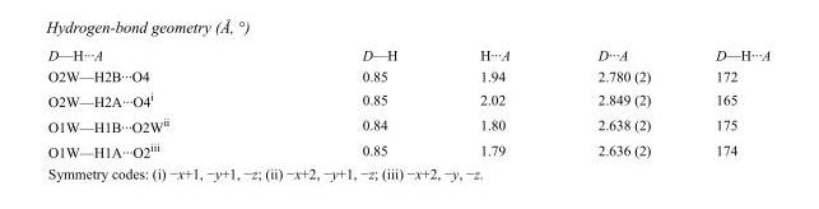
<table><tbody><tr><td>D—H···A</td><td>D—H</td><td>H···A</td><td>D···A</td><td>D—H···A</td></tr><tr><td>O2W—H2B···O4</td><td>0.85</td><td>1.94</td><td>2.780 (2)</td><td>172</td></tr><tr><td>O2W—H2A···O4<sup>i</sup></td><td>0.85</td><td>2.02</td><td>2.849 (2)</td><td>165</td></tr><tr><td>O1W—H1B···O2W<sup>ii</sup></td><td>0.84</td><td>1.80</td><td>2.638 (2)</td><td>175</td></tr><tr><td>O1W—H1A···O2<sup>iii</sup></td><td>0.85</td><td>1.79</td><td>2.636 (2)</td><td>174</td></tr></tbody></table>